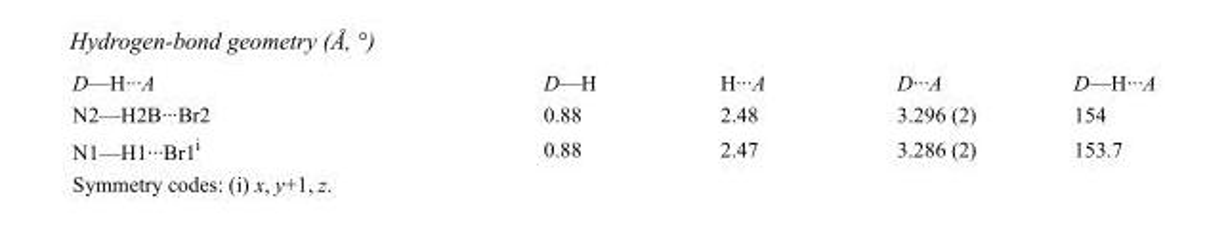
<table><tbody><tr><td>D—H···A</td><td>D—H</td><td>H···A</td><td>D···A</td><td>D—H···A</td></tr><tr><td>N2—H2B···Br2</td><td>0.88</td><td>2.48</td><td>3.296 (2)</td><td>154</td></tr><tr><td>N1—H1···Br1<sup>i</sup></td><td>0.88</td><td>2.47</td><td>3.286 (2)</td><td>153.7</td></tr></tbody></table>